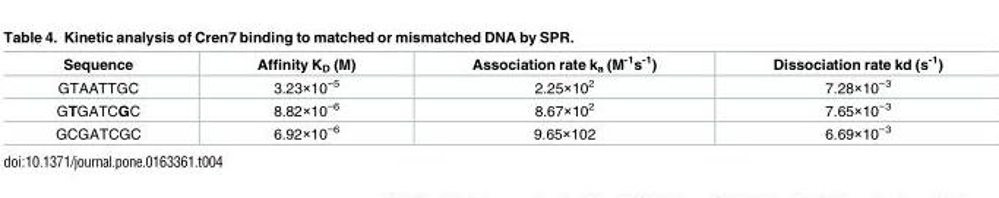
<table><thead><tr><td>Sequence</td><td>Affinity K<sub>D</sub> (M)</td><td>Association rate k<sub>a</sub> (M<sup>-1</sup>s<sup>-1</sup>)</td><td>Dissociation rate kd (s<sup>-1</sup>)</td></tr></thead><tbody><tr><td>GTAATTGC</td><td>3.23×10<sup>−5</sup></td><td>2.25×10<sup>2</sup></td><td>7.28×10<sup>−3</sup></td></tr><tr><td>GTGATCGC</td><td>8.82×10<sup>−6</sup></td><td>8.67×10<sup>2</sup></td><td>7.65×10<sup>−3</sup></td></tr><tr><td>GCGATCGC</td><td>6.92×10<sup>−6</sup></td><td>9.65×102</td><td>6.69×10<sup>−3</sup></td></tr></tbody></table>